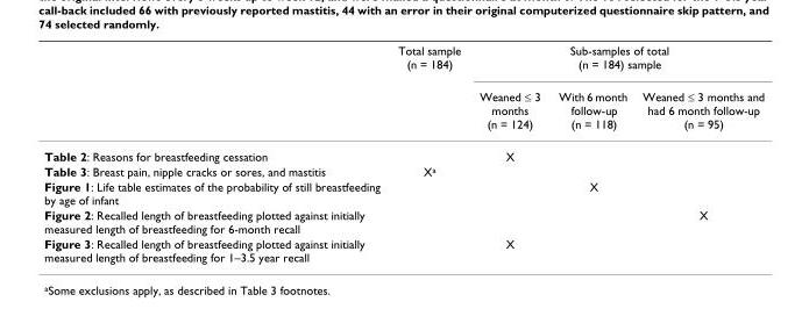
<table><thead><tr><td rowspan="2"></td><td rowspan="2">Total sample (n = 184)</td><td colspan="3">Sub-samples of total (n = 184) sample</td></tr><tr><td>Weaned ≤ 3 months (n = 124)</td><td>With 6 month follow-up (n = 118)</td><td>Weaned ≤ 3 months and had 6 month follow-up (n = 95)</td></tr></thead><tbody><tr><td>Table 2: Reasons for breastfeeding cessation</td><td></td><td>X</td><td></td><td></td></tr><tr><td>Table 3: Breast pain, nipple cracks or sores, and mastitis</td><td>X<sup>a</sup></td><td></td><td></td><td></td></tr><tr><td>Figure 1: Life table estimates of the probability of still breastfeeding by age of infant</td><td></td><td></td><td>X</td><td></td></tr><tr><td>Figure 2: Recalled length of breastfeeding plotted against initially measured length of breastfeeding for 6-month recall</td><td></td><td></td><td></td><td>X</td></tr><tr><td>Figure 3: Recalled length of breastfeeding plotted against initially measured length of breastfeeding for 1–3.5 year recall</td><td></td><td>X</td><td></td><td></td></tr></tbody></table>